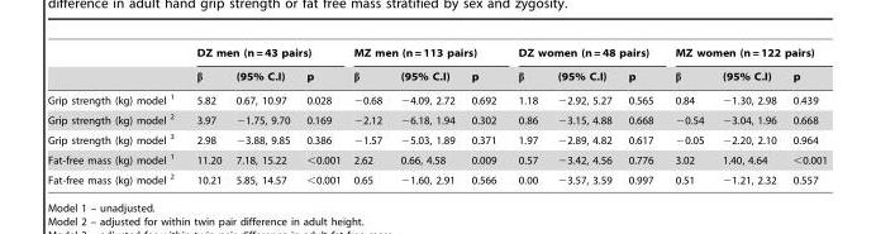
<table><thead><tr><td rowspan="2"></td><td colspan="3">DZ men (n = 43 pairs)</td><td colspan="3">MZ men (n = 113 pairs)</td><td colspan="3">DZ women (n = 48 pairs)</td><td colspan="3">MZ women (n = 122 pairs)</td></tr><tr><td>β</td><td>(95% C.I)</td><td>p</td><td>β</td><td>(95% C.I)</td><td>p</td><td>β</td><td>(95% C.I)</td><td>p</td><td>β</td><td>(95% C.I)</td><td>p</td></tr></thead><tbody><tr><td>Grip strength (kg) model 1</td><td>5.82</td><td>0.67, 10.97</td><td>0.028</td><td>−0.68</td><td>−4.09, 2.72</td><td>0.692</td><td>1.18</td><td>−2.92, 5.27</td><td>0.565</td><td>0.84</td><td>−1.30, 2.98</td><td>0.439</td></tr><tr><td>Grip strength (kg) model 2</td><td>3.97</td><td>−1.75, 9.70</td><td>0.169</td><td>−2.12</td><td>−6.18, 1.94</td><td>0.302</td><td>0.86</td><td>−3.15, 4.88</td><td>0.668</td><td>−0.54</td><td>−3.04, 1.96</td><td>0.668</td></tr><tr><td>Grip strength (kg) model 3</td><td>2.98</td><td>−3.88, 9.85</td><td>0.386</td><td>−1.57</td><td>−5.03, 1.89</td><td>0.371</td><td>1.97</td><td>−2.89, 4.82</td><td>0.617</td><td>−0.05</td><td>−2.20, 2.10</td><td>0.964</td></tr><tr><td>Fat-free mass (kg) model 1</td><td>11.20</td><td>7.18, 15.22</td><td>&lt;0.001</td><td>2.62</td><td>0.66, 4.58</td><td>0.009</td><td>0.57</td><td>−3.42, 4.56</td><td>0.776</td><td>3.02</td><td>1.40, 4.64</td><td>&lt;0.001</td></tr><tr><td>Fat-free mass (kg) model 2</td><td>10.21</td><td>5.85, 14.57</td><td>&lt;0.001</td><td>0.65</td><td>−1.60, 2.91</td><td>0.566</td><td>0.00</td><td>−3.57, 3.59</td><td>0.997</td><td>0.51</td><td>−1.21, 2.32</td><td>0.557</td></tr></tbody></table>